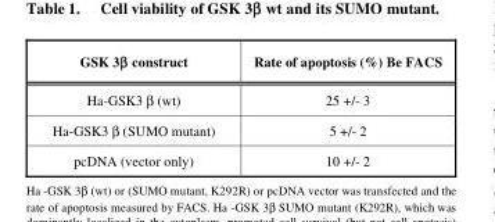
<table><tbody><tr><td>GSK 3β construct</td><td>Rate of apoptosis (%) Be FACS</td></tr><tr><td>Ha-GSK3 β (wt)</td><td>25 +/- 3</td></tr><tr><td>Ha-GSK3 β (SUMO mutant)</td><td>5 +/- 2</td></tr><tr><td>pcDNA (vector only)</td><td>10 +/- 2</td></tr></tbody></table>